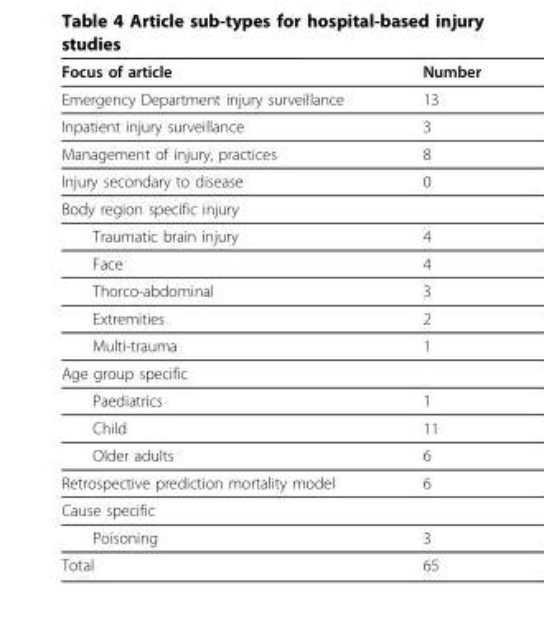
<table><thead><tr><td>Focus of article</td><td>Number</td></tr></thead><tbody><tr><td>Emergency Department injury surveillance</td><td>13</td></tr><tr><td>Inpatient injury surveillance</td><td>3</td></tr><tr><td>Management of injury, practices</td><td>8</td></tr><tr><td>Injury secondary to disease</td><td>0</td></tr><tr><td colspan="2">Body region specific injury</td></tr><tr><td>Traumatic brain injury</td><td>4</td></tr><tr><td>Face</td><td>4</td></tr><tr><td>Thorco-abdominal</td><td>3</td></tr><tr><td>Extremities</td><td>2</td></tr><tr><td>Multi-trauma</td><td>1</td></tr><tr><td colspan="2">Age group specific</td></tr><tr><td>Paediatrics</td><td>1</td></tr><tr><td>Child</td><td>11</td></tr><tr><td>Older adults</td><td>6</td></tr><tr><td>Retrospective prediction mortality model</td><td>6</td></tr><tr><td colspan="2">Cause specific</td></tr><tr><td>Poisoning</td><td>3</td></tr><tr><td>Total</td><td>65</td></tr></tbody></table>